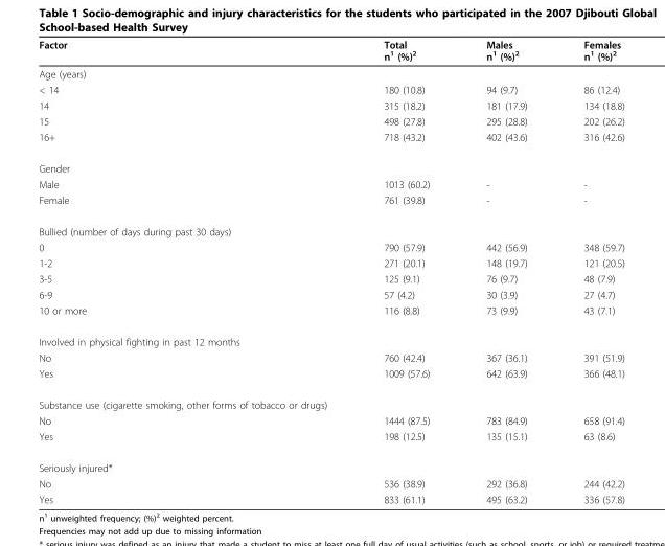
<table><thead><tr><td>Factor</td><td>Total n<sup>1</sup> (%)<sup>2</sup></td><td>Males n<sup>1</sup> (%)<sup>2</sup></td><td>Females n<sup>1</sup> (%)<sup>2</sup></td></tr></thead><tbody><tr><td colspan="4">Age (years)</td></tr><tr><td>&lt; 14</td><td>180 (10.8)</td><td>94 (9.7)</td><td>86 (12.4)</td></tr><tr><td>14</td><td>315 (18.2)</td><td>181 (17.9)</td><td>134 (18.8)</td></tr><tr><td>15</td><td>498 (27.8)</td><td>295 (28.8)</td><td>202 (26.2)</td></tr><tr><td>16+</td><td>718 (43.2)</td><td>402 (43.6)</td><td>316 (42.6)</td></tr><tr><td colspan="4">Gender</td></tr><tr><td>Male</td><td>1013 (60.2)</td><td>-</td><td>-</td></tr><tr><td>Female</td><td>761 (39.8)</td><td>-</td><td>-</td></tr><tr><td colspan="4">Bullied (number of days during past 30 days)</td></tr><tr><td>0</td><td>790 (57.9)</td><td>442 (56.9)</td><td>348 (59.7)</td></tr><tr><td>1-2</td><td>271 (20.1)</td><td>148 (19.7)</td><td>121 (20.5)</td></tr><tr><td>3-5</td><td>125 (9.1)</td><td>76 (9.7)</td><td>48 (7.9)</td></tr><tr><td>6-9</td><td>57 (4.2)</td><td>30 (3.9)</td><td>27 (4.7)</td></tr><tr><td>10 or more</td><td>116 (8.8)</td><td>73 (9.9)</td><td>43 (7.1)</td></tr><tr><td colspan="4">Involved in physical fighting in past 12 months</td></tr><tr><td>No</td><td>760 (42.4)</td><td>367 (36.1)</td><td>391 (51.9)</td></tr><tr><td>Yes</td><td>1009 (57.6)</td><td>642 (63.9)</td><td>366 (48.1)</td></tr><tr><td colspan="4">Substance use (cigarette smoking, other forms of tobacco or drugs)</td></tr><tr><td>No</td><td>1444 (87.5)</td><td>783 (84.9)</td><td>658 (91.4)</td></tr><tr><td>Yes</td><td>198 (12.5)</td><td>135 (15.1)</td><td>63 (8.6)</td></tr><tr><td colspan="4">Seriously injured*</td></tr><tr><td>No</td><td>536 (38.9)</td><td>292 (36.8)</td><td>244 (42.2)</td></tr><tr><td>Yes</td><td>833 (61.1)</td><td>495 (63.2)</td><td>336 (57.8)</td></tr></tbody></table>